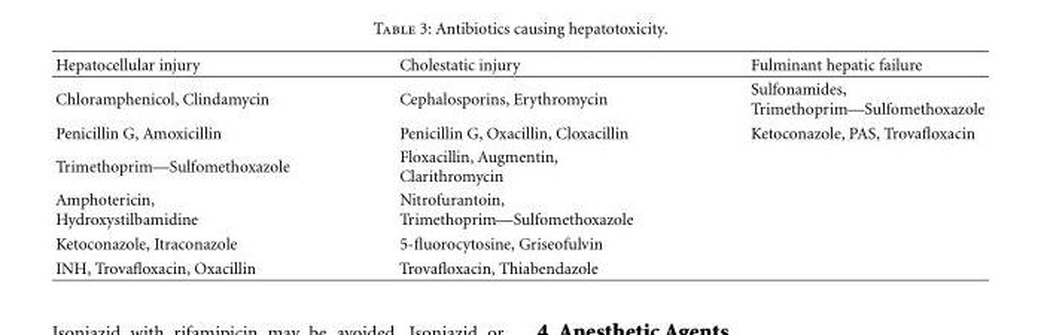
<table><thead><tr><td>Hepatocellular injury</td><td>Cholestatic injury</td><td>Fulminant hepatic failure</td></tr></thead><tbody><tr><td>Chloramphenicol, Clindamycin</td><td>Cephalosporins, Erythromycin</td><td>Sulfonamides, Trimethoprim—Sulfomethoxazole</td></tr><tr><td>Penicillin G, Amoxicillin</td><td>Penicillin G, Oxacillin, Cloxacillin</td><td>Ketoconazole, PAS, Trovafloxacin</td></tr><tr><td>Trimethoprim—Sulfomethoxazole</td><td>Floxacillin, Augmentin, Clarithromycin</td><td></td></tr><tr><td>Amphotericin, Hydroxystilbamidine</td><td>Nitrofurantoin, Trimethoprim—Sulfomethoxazole</td><td></td></tr><tr><td>Ketoconazole, Itraconazole</td><td>5-fluorocytosine, Griseofulvin</td><td></td></tr><tr><td>INH, Trovafloxacin, Oxacillin</td><td>Trovafloxacin, Thiabendazole</td><td></td></tr></tbody></table>